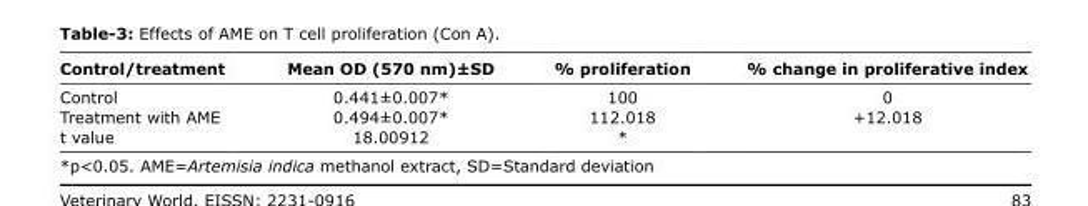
<table><thead><tr><td>Control/treatment</td><td>Mean OD (570 nm)±SD</td><td>% proliferation</td><td>% change in proliferative index</td></tr></thead><tbody><tr><td>Control</td><td>0.441±0.007*</td><td>100</td><td>0</td></tr><tr><td>Treatment with AME</td><td>0.494±0.007*</td><td>112.018</td><td>+12.018</td></tr><tr><td>t value</td><td>18.00912</td><td>*</td><td></td></tr></tbody></table>